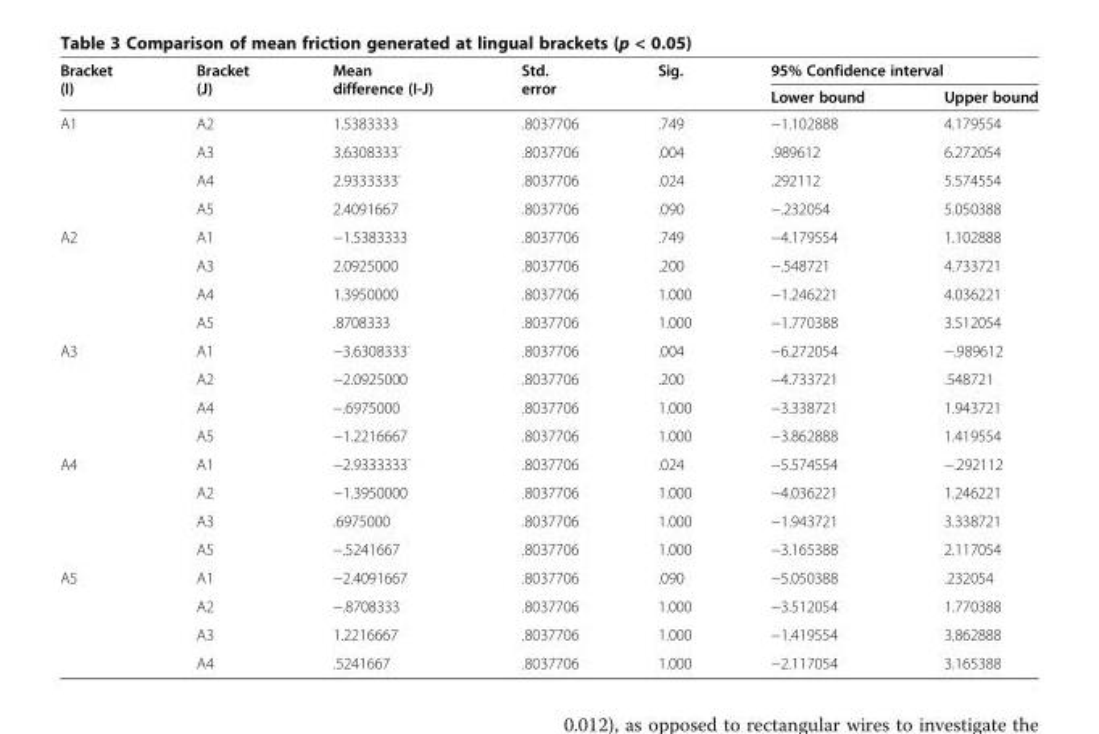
<table><thead><tr><td rowspan="2">Bracket (I)</td><td rowspan="2">Bracket (J)</td><td rowspan="2">Mean difference (I-J)</td><td rowspan="2">Std. error</td><td rowspan="2">Sig.</td><td colspan="2">95% Confidence interval</td></tr><tr><td>Lower bound</td><td>Upper bound</td></tr></thead><tbody><tr><td rowspan="4">A1</td><td>A2</td><td>1.5383333</td><td>.8037706</td><td>.749</td><td>−1.102888</td><td>4.179554</td></tr><tr><td>A3</td><td>3.6308333<sup>-</sup></td><td>.8037706</td><td>.004</td><td>.989612</td><td>6.272054</td></tr><tr><td>A4</td><td>2.9333333<sup>-</sup></td><td>.8037706</td><td>.024</td><td>.292112</td><td>5.574554</td></tr><tr><td>A5</td><td>2.4091667</td><td>.8037706</td><td>.090</td><td>−.232054</td><td>5.050388</td></tr><tr><td rowspan="4">A2</td><td>A1</td><td>−1.5383333</td><td>.8037706</td><td>.749</td><td>−4.179554</td><td>1.102888</td></tr><tr><td>A3</td><td>2.0925000</td><td>.8037706</td><td>.200</td><td>−.548721</td><td>4.733721</td></tr><tr><td>A4</td><td>1.3950000</td><td>.8037706</td><td>1.000</td><td>−1.246221</td><td>4.036221</td></tr><tr><td>A5</td><td>.8708333</td><td>.8037706</td><td>1.000</td><td>−1.770388</td><td>3.512054</td></tr><tr><td rowspan="4">A3</td><td>A1</td><td>−3.6308333<sup>-</sup></td><td>.8037706</td><td>.004</td><td>−6.272054</td><td>−.989612</td></tr><tr><td>A2</td><td>−2.0925000</td><td>.8037706</td><td>.200</td><td>−4.733721</td><td>.548721</td></tr><tr><td>A4</td><td>−.6975000</td><td>.8037706</td><td>1.000</td><td>−3.338721</td><td>1.943721</td></tr><tr><td>A5</td><td>−1.2216667</td><td>.8037706</td><td>1.000</td><td>−3.862888</td><td>1.419554</td></tr><tr><td rowspan="4">A4</td><td>A1</td><td>−2.9333333<sup>-</sup></td><td>.8037706</td><td>.024</td><td>−5.574554</td><td>−.292112</td></tr><tr><td>A2</td><td>−1.3950000</td><td>.8037706</td><td>1.000</td><td>−4.036221</td><td>1.246221</td></tr><tr><td>A3</td><td>.6975000</td><td>.8037706</td><td>1.000</td><td>−1.943721</td><td>3.338721</td></tr><tr><td>A5</td><td>−.5241667</td><td>.8037706</td><td>1.000</td><td>−3.165388</td><td>2.117054</td></tr><tr><td rowspan="4">A5</td><td>A1</td><td>−2.4091667</td><td>.8037706</td><td>.090</td><td>−5.050388</td><td>.232054</td></tr><tr><td>A2</td><td>−.8708333</td><td>.8037706</td><td>1.000</td><td>−3.512054</td><td>1.770388</td></tr><tr><td>A3</td><td>1.2216667</td><td>.8037706</td><td>1.000</td><td>−1.419554</td><td>3.862888</td></tr><tr><td>A4</td><td>.5241667</td><td>.8037706</td><td>1.000</td><td>−2.117054</td><td>3.165388</td></tr></tbody></table>